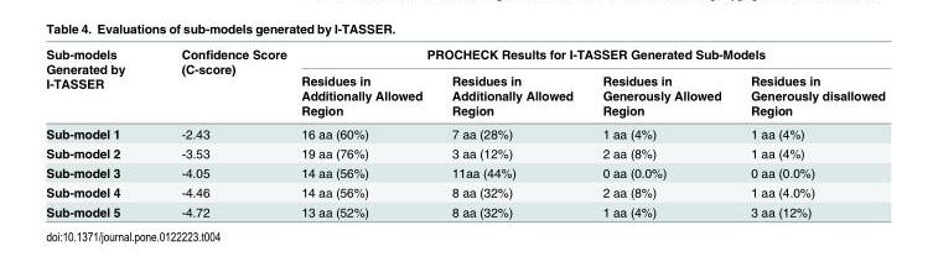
<table><thead><tr><td rowspan="2">Sub-models Generated by I-TASSER</td><td rowspan="2">Confidence Score (C-score)</td><td colspan="4">PROCHECK Results for I-TASSER Generated Sub-Models</td></tr><tr><td>Residues in Additionally Allowed Region</td><td>Residues in Additionally Allowed Region</td><td>Residues in Generously Allowed Region</td><td>Residues in Generously disallowed Region</td></tr></thead><tbody><tr><td>Sub-model 1</td><td>-2.43</td><td>16 aa (60%)</td><td>7 aa (28%)</td><td>1 aa (4%)</td><td>1 aa (4%)</td></tr><tr><td>Sub-model 2</td><td>-3.53</td><td>19 aa (76%)</td><td>3 aa (12%)</td><td>2 aa (8%)</td><td>1 aa (4%)</td></tr><tr><td>Sub-model 3</td><td>-4.05</td><td>14 aa (56%)</td><td>11aa (44%)</td><td>0 aa (0.0%)</td><td>0 aa (0.0%)</td></tr><tr><td>Sub-model 4</td><td>-4.46</td><td>14 aa (56%)</td><td>8 aa (32%)</td><td>2 aa (8%)</td><td>1 aa (4.0%)</td></tr><tr><td>Sub-model 5</td><td>-4.72</td><td>13 aa (52%)</td><td>8 aa (32%)</td><td>1 aa (4%)</td><td>3 aa (12%)</td></tr></tbody></table>